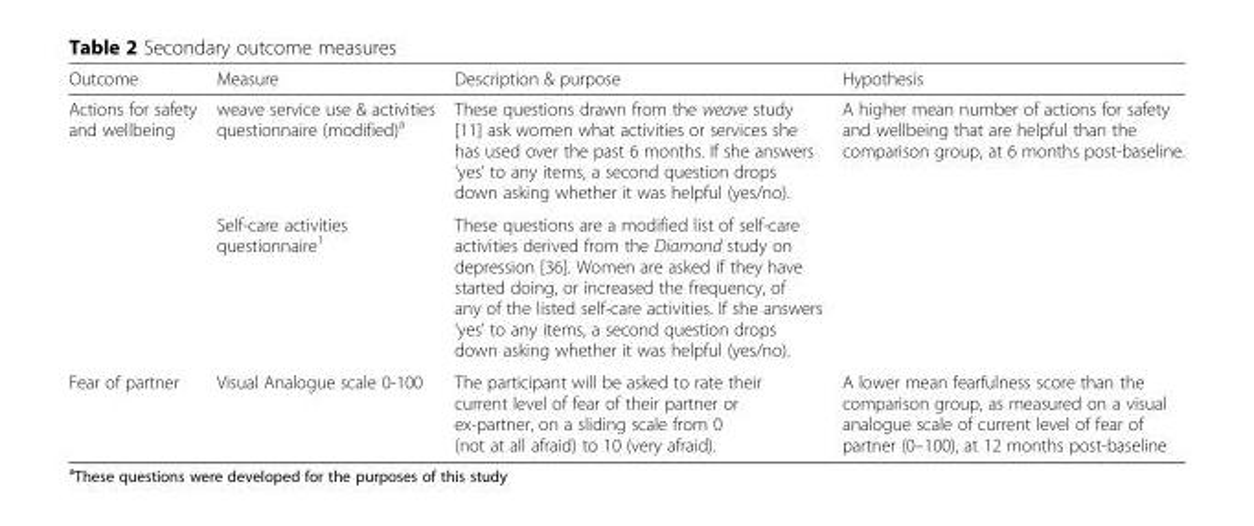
<table><thead><tr><td>Outcome</td><td>Measure</td><td>Description &amp; purpose</td><td>Hypothesis</td></tr></thead><tbody><tr><td rowspan="2">Actions for safety and wellbeing</td><td>weave service use &amp; activities questionnaire (modified)<sup>a</sup></td><td>These questions drawn from the weave study [11] ask women what activities or services she has used over the past 6 months. If she answers ‘yes’ to any items, a second question drops down asking whether it was helpful (yes/no).</td><td rowspan="2">A higher mean number of actions for safety and wellbeing that are helpful than the comparison group, at 6 months post-baseline.</td></tr><tr><td>Self-care activities questionnaire<sup>1</sup></td><td>These questions are a modified list of self-care activities derived from the Diamond study on depression [36]. Women are asked if they have started doing, or increased the frequency, of any of the listed self-care activities. If she answers ‘yes’ to any items, a second question drops down asking whether it was helpful (yes/no).</td></tr><tr><td>Fear of partner</td><td>Visual Analogue scale 0-100</td><td>The participant will be asked to rate their current level of fear of their partner or ex-partner, on a sliding scale from 0 (not at all afraid) to 10 (very afraid).</td><td>A lower mean fearfulness score than the comparison group, as measured on a visual analogue scale of current level of fear of partner (0–100), at 12 months post-baseline</td></tr></tbody></table>